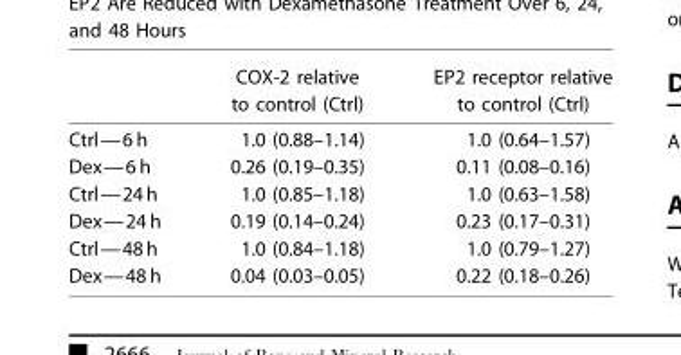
<table><thead><tr><td></td><td>COX-2 relative to control (Ctrl)</td><td>EP2 receptor relative to control (Ctrl)</td></tr></thead><tbody><tr><td>Ctrl—6 h</td><td>1.0 (0.88–1.14)</td><td>1.0 (0.64–1.57)</td></tr><tr><td>Dex—6 h</td><td>0.26 (0.19–0.35)</td><td>0.11 (0.08–0.16)</td></tr><tr><td>Ctrl—24 h</td><td>1.0 (0.85–1.18)</td><td>1.0 (0.63–1.58)</td></tr><tr><td>Dex—24 h</td><td>0.19 (0.14–0.24)</td><td>0.23 (0.17–0.31)</td></tr><tr><td>Ctrl—48 h</td><td>1.0 (0.84–1.18)</td><td>1.0 (0.79–1.27)</td></tr><tr><td>Dex—48 h</td><td>0.04 (0.03–0.05)</td><td>0.22 (0.18–0.26)</td></tr></tbody></table>